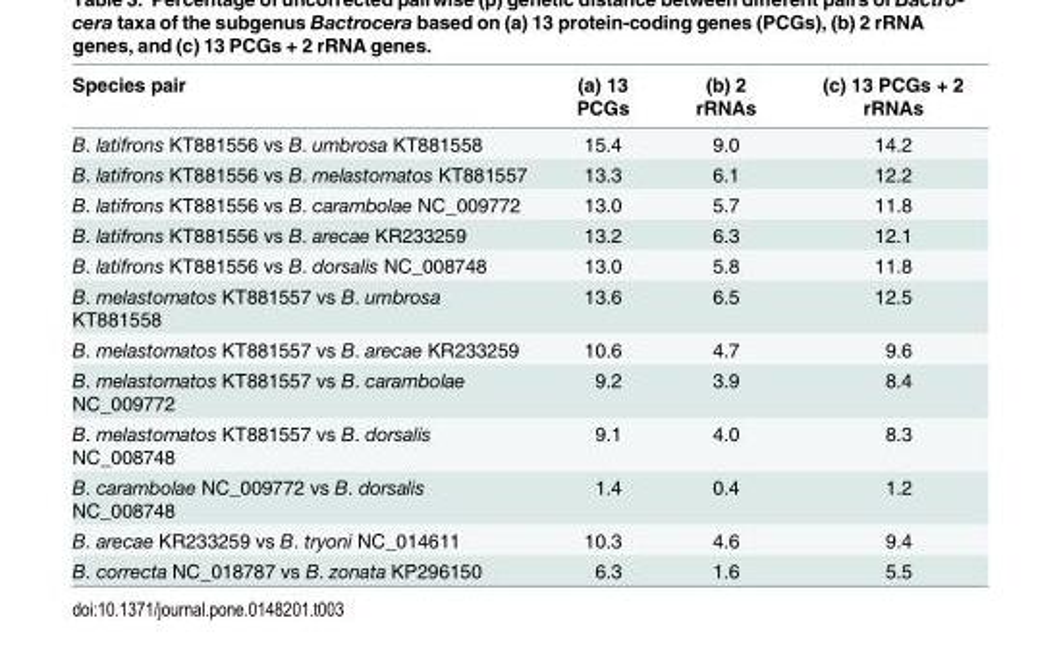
<table><thead><tr><td>Species pair</td><td>(a) 13 PCGs</td><td>(b) 2 rRNAs</td><td>(c) 13 PCGs + 2 rRNAs</td></tr></thead><tbody><tr><td>B. latifrons KT881556 vs B. umbrosa KT881558</td><td>15.4</td><td>9.0</td><td>14.2</td></tr><tr><td>B. latifrons KT881556 vs B. melastomatos KT881557</td><td>13.3</td><td>6.1</td><td>12.2</td></tr><tr><td>B. latifrons KT881556 vs B. carambolae NC_009772</td><td>13.0</td><td>5.7</td><td>11.8</td></tr><tr><td>B. latifrons KT881556 vs B. arecae KR233259</td><td>13.2</td><td>6.3</td><td>12.1</td></tr><tr><td>B. latifrons KT881556 vs B. dorsalis NC_008748</td><td>13.0</td><td>5.8</td><td>11.8</td></tr><tr><td>B. melastomatos KT881557 vs B. umbrosa KT881558</td><td>13.6</td><td>6.5</td><td>12.5</td></tr><tr><td>B. melastomatos KT881557 vs B. arecae KR233259</td><td>10.6</td><td>4.7</td><td>9.6</td></tr><tr><td>B. melastomatos KT881557 vs B. carambolae NC_009772</td><td>9.2</td><td>3.9</td><td>8.4</td></tr><tr><td>B. melastomatos KT881557 vs B. dorsalis NC_008748</td><td>9.1</td><td>4.0</td><td>8.3</td></tr><tr><td>B. carambolae NC_009772 vs B. dorsalis NC_008748</td><td>1.4</td><td>0.4</td><td>1.2</td></tr><tr><td>B. arecae KR233259 vs B. tryoni NC_014611</td><td>10.3</td><td>4.6</td><td>9.4</td></tr><tr><td>B. correcta NC_018787 vs B. zonata KP296150</td><td>6.3</td><td>1.6</td><td>5.5</td></tr></tbody></table>